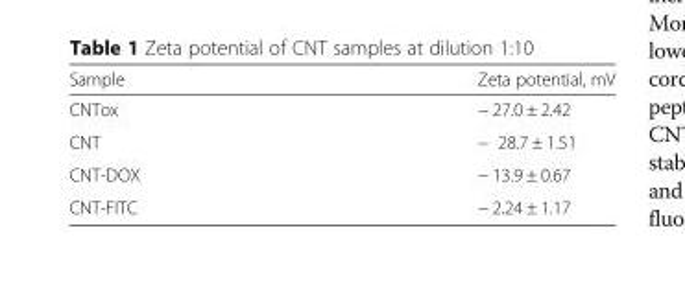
<table><thead><tr><td>Sample</td><td>Zeta potential, mV</td></tr></thead><tbody><tr><td>CNTox</td><td>− 27.0 ± 2.42</td></tr><tr><td>CNT</td><td>− 28.7 ± 1.51</td></tr><tr><td>CNT-DOX</td><td>− 13.9 ± 0.67</td></tr><tr><td>CNT-FITC</td><td>− 2.24 ± 1.17</td></tr></tbody></table>